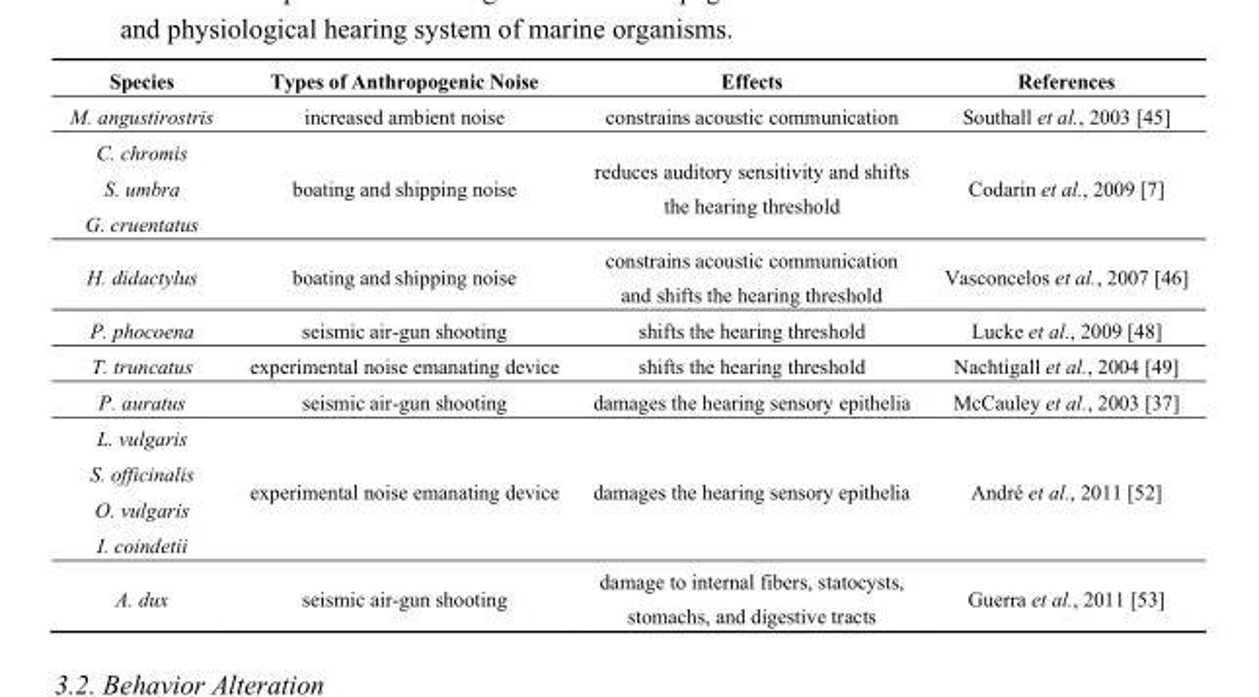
<table><thead><tr><td>Species</td><td>Types of Anthropogenic Noise</td><td>Effects</td><td>References</td></tr></thead><tbody><tr><td>M. angustirostris</td><td>increased ambient noise</td><td>constrains acoustic communication</td><td>Southall et al., 2003 [45]</td></tr><tr><td>C. chromis</td><td rowspan="3">boating and shipping noise</td><td rowspan="3">reduces auditory sensitivity and shifts the hearing threshold</td><td rowspan="3">Codarin et al., 2009 [7]</td></tr><tr><td>S. umbra</td></tr><tr><td>G. cruentatus</td></tr><tr><td>H. didactylus</td><td>boating and shipping noise</td><td>constrains acoustic communication and shifts the hearing threshold</td><td>Vasconcelos et al., 2007 [46]</td></tr><tr><td>P. phocoena</td><td>seismic air-gun shooting</td><td>shifts the hearing threshold</td><td>Lucke et al., 2009 [48]</td></tr><tr><td>T. truncatus</td><td>experimental noise emanating device</td><td>shifts the hearing threshold</td><td>Nachtigall et al., 2004 [49]</td></tr><tr><td>P. auratus</td><td>seismic air-gun shooting</td><td>damages the hearing sensory epithelia</td><td>McCauley et al., 2003 [37]</td></tr><tr><td>L. vulgaris</td><td rowspan="4">experimental noise emanating device</td><td rowspan="4">damages the hearing sensory epithelia</td><td rowspan="4">André et al., 2011 [52]</td></tr><tr><td>S. officinalis</td></tr><tr><td>O. vulgaris</td></tr><tr><td>I. coindetii</td></tr><tr><td>A. dux</td><td>seismic air-gun shooting</td><td>damage to internal fibers, statocysts, stomachs, and digestive tracts</td><td>Guerra et al., 2011 [53]</td></tr></tbody></table>